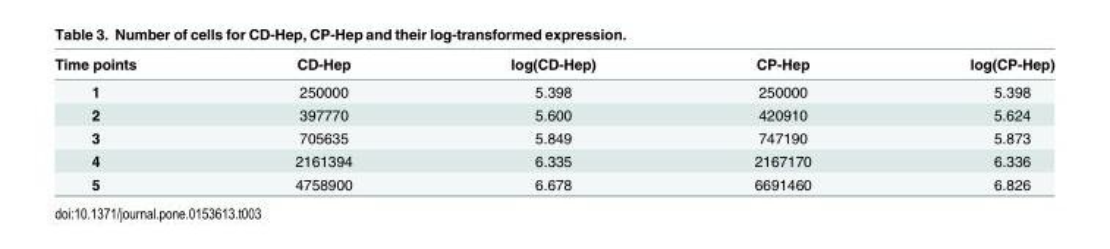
<table><thead><tr><td>Time points</td><td>CD-Hep</td><td>log(CD-Hep)</td><td>CP-Hep</td><td>log(CP-Hep)</td></tr></thead><tbody><tr><td>1</td><td>250000</td><td>5.398</td><td>250000</td><td>5.398</td></tr><tr><td>2</td><td>397770</td><td>5.600</td><td>420910</td><td>5.624</td></tr><tr><td>3</td><td>705635</td><td>5.849</td><td>747190</td><td>5.873</td></tr><tr><td>4</td><td>2161394</td><td>6.335</td><td>2167170</td><td>6.336</td></tr><tr><td>5</td><td>4758900</td><td>6.678</td><td>6691460</td><td>6.826</td></tr></tbody></table>